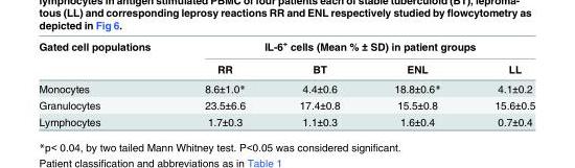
<table><thead><tr><td rowspan="2">Gated cell populations</td><td colspan="4">IL-6<sup>+</sup> cells (Mean % ± SD) in patient groups</td></tr><tr><td>RR</td><td>BT</td><td>ENL</td><td>LL</td></tr></thead><tbody><tr><td>Monocytes</td><td>8.6±1.0*</td><td>4.4±0.6</td><td>18.8±0.6*</td><td>4.1±0.2</td></tr><tr><td>Granulocytes</td><td>23.5±6.6</td><td>17.4±0.8</td><td>15.5±0.8</td><td>15.6±0.5</td></tr><tr><td>Lymphocytes</td><td>1.7±0.3</td><td>1.1±0.3</td><td>1.6±0.4</td><td>0.7±0.4</td></tr></tbody></table>